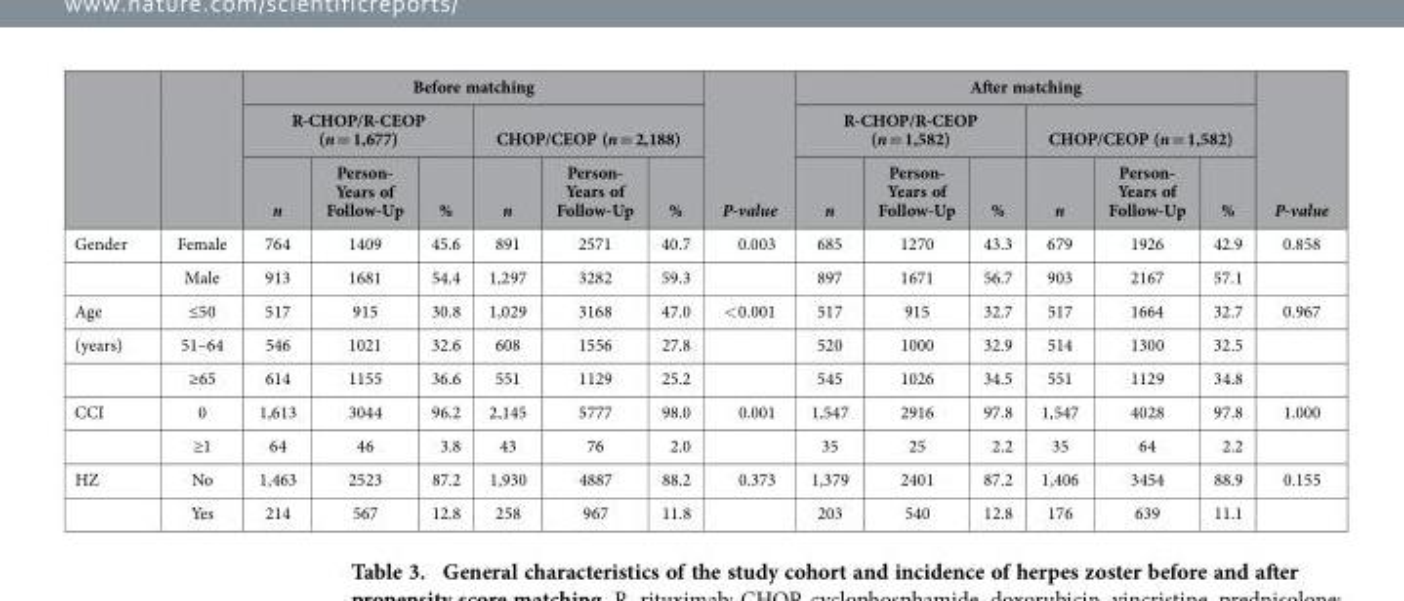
<table><thead><tr><td rowspan="3"></td><td rowspan="3"></td><td colspan="6">Before matching</td><td rowspan="3">P-value</td><td colspan="6">After matching</td><td rowspan="3">P-value</td></tr><tr><td colspan="3">R-CHOP/R-CEOP (n = 1,677)</td><td colspan="3">CHOP/CEOP (n = 2,188)</td><td colspan="3">R-CHOP/R-CEOP (n = 1,582)</td><td colspan="3">CHOP/CEOP (n = 1,582)</td></tr><tr><td>n</td><td>Person- Years of Follow-Up</td><td>%</td><td>n</td><td>Person- Years of Follow-Up</td><td>%</td><td>n</td><td>Person- Years of Follow-Up</td><td>%</td><td>n</td><td>Person- Years of Follow-Up</td><td>%</td></tr></thead><tbody><tr><td rowspan="2">Gender</td><td>Female</td><td>764</td><td>1409</td><td>45.6</td><td>891</td><td>2571</td><td>40.7</td><td>0.003</td><td>685</td><td>1270</td><td>43.3</td><td>679</td><td>1926</td><td>42.9</td><td>0.858</td></tr><tr><td>Male</td><td>913</td><td>1681</td><td>54.4</td><td>1,297</td><td>3282</td><td>59.3</td><td></td><td>897</td><td>1671</td><td>56.7</td><td>903</td><td>2167</td><td>57.1</td><td></td></tr><tr><td>Age</td><td>≤50</td><td>517</td><td>915</td><td>30.8</td><td>1,029</td><td>3168</td><td>47.0</td><td>&lt; 0.001</td><td>517</td><td>915</td><td>32.7</td><td>517</td><td>1664</td><td>32.7</td><td>0.967</td></tr><tr><td rowspan="2">(years)</td><td>51–64</td><td>546</td><td>1021</td><td>32.6</td><td>608</td><td>1556</td><td>27.8</td><td></td><td>520</td><td>1000</td><td>32.9</td><td>514</td><td>1300</td><td>32.5</td><td></td></tr><tr><td>≥65</td><td>614</td><td>1155</td><td>36.6</td><td>551</td><td>1129</td><td>25.2</td><td></td><td>545</td><td>1026</td><td>34.5</td><td>551</td><td>1129</td><td>34.8</td><td></td></tr><tr><td rowspan="2">CCI</td><td>0</td><td>1,613</td><td>3044</td><td>96.2</td><td>2,145</td><td>5777</td><td>98.0</td><td>0.001</td><td>1,547</td><td>2916</td><td>97.8</td><td>1,547</td><td>4028</td><td>97.8</td><td>1.000</td></tr><tr><td>≥1</td><td>64</td><td>46</td><td>3.8</td><td>43</td><td>76</td><td>2.0</td><td></td><td>35</td><td>25</td><td>2.2</td><td>35</td><td>64</td><td>2.2</td><td></td></tr><tr><td rowspan="2">HZ</td><td>No</td><td>1,463</td><td>2523</td><td>87.2</td><td>1,930</td><td>4887</td><td>88.2</td><td>0.373</td><td>1,379</td><td>2401</td><td>87.2</td><td>1,406</td><td>3454</td><td>88.9</td><td>0.155</td></tr><tr><td>Yes</td><td>214</td><td>567</td><td>12.8</td><td>258</td><td>967</td><td>11.8</td><td></td><td>203</td><td>540</td><td>12.8</td><td>176</td><td>639</td><td>11.1</td><td></td></tr></tbody></table>